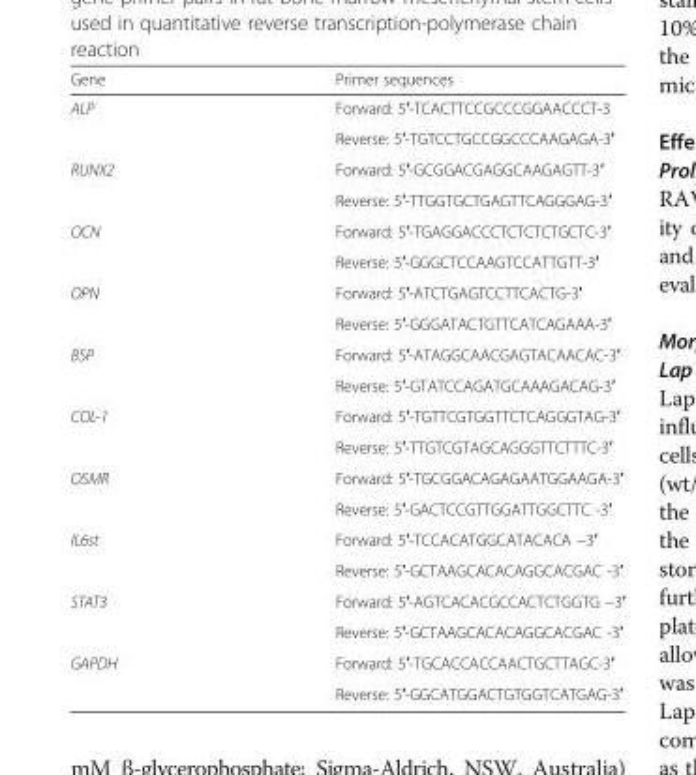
<table><thead><tr><td>Gene</td><td>Primer sequences</td></tr></thead><tbody><tr><td rowspan="2">ALP</td><td>Forward: 5′-TCACTTCCGCCCGGAACCCT-3</td></tr><tr><td>Reverse: 5′-TGTCCTGCCGGCCCAAGAGA-3′</td></tr><tr><td rowspan="2">RUNX2</td><td>Forward: 5′-GCGGACGAGGCAAGAGTT-3′</td></tr><tr><td>Reverse: 5′-TTGGTGCTGAGTTCAGGGAG-3′</td></tr><tr><td rowspan="2">OCN</td><td>Forward: 5′-TGAGGACCCTCTCTCTGCTC-3′</td></tr><tr><td>Reverse: 5′-GGGCTCCAAGTCCATTGTT-3′</td></tr><tr><td rowspan="2">OPN</td><td>Forward: 5′-ATCTGAGTCCTTCACTG-3′</td></tr><tr><td>Reverse: 5′-GGGATACTGTTCATCAGAAA-3′</td></tr><tr><td rowspan="2">BSP</td><td>Forward: 5′-ATAGGCAACGAGTACAACAC-3′</td></tr><tr><td>Reverse: 5′-GTATCCAGATGCAAAGACAG-3′</td></tr><tr><td rowspan="2">COL-1</td><td>Forward: 5′-TGTTCGTGGTTCTCAGGGTAG-3′</td></tr><tr><td>Reverse: 5′-TTGTCGTAGCAGGGTTCTTTC-3′</td></tr><tr><td rowspan="2">OSMR</td><td>Forward: 5′-TGCGGACAGAGAATGGAAGA-3′</td></tr><tr><td>Reverse: 5′-GACTCCGTTGGATTGGCTTC -3′</td></tr><tr><td rowspan="2">IL6st</td><td>Forward: 5′-TCCACATGGCATACACA −3′</td></tr><tr><td>Reverse: 5′-GCTAAGCACACAGGCACGAC -3′</td></tr><tr><td rowspan="2">STAT3</td><td>Forward: 5′-AGTCACACGCCACTCTGGTG −3′</td></tr><tr><td>Reverse: 5′-GCTAAGCACACAGGCACGAC -3′</td></tr><tr><td rowspan="2">GAPDH</td><td>Forward: 5′-TGCACCACCAACTGCTTAGC-3′</td></tr><tr><td>Reverse: 5′-GGCATGGACTGTGGTCATGAG-3′</td></tr></tbody></table>